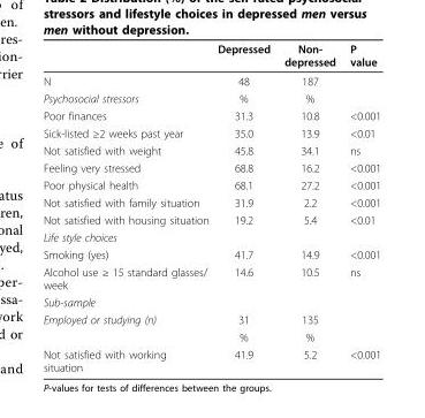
<table><thead><tr><td></td><td>Depressed</td><td>Non- depressed</td><td>P value</td></tr></thead><tbody><tr><td>N</td><td>48</td><td>187</td><td></td></tr><tr><td>Psychosocial stressors</td><td>%</td><td>%</td><td></td></tr><tr><td>Poor finances</td><td>31.3</td><td>10.8</td><td>&lt;0.001</td></tr><tr><td>Sick-listed ≥2 weeks past year</td><td>35.0</td><td>13.9</td><td>&lt;0.01</td></tr><tr><td>Not satisfied with weight</td><td>45.8</td><td>34.1</td><td>ns</td></tr><tr><td>Feeling very stressed</td><td>68.8</td><td>16.2</td><td>&lt;0.001</td></tr><tr><td>Poor physical health</td><td>68.1</td><td>27.2</td><td>&lt;0.001</td></tr><tr><td>Not satisfied with family situation</td><td>31.9</td><td>2.2</td><td>&lt;0.001</td></tr><tr><td>Not satisfied with housing situation</td><td>19.2</td><td>5.4</td><td>&lt;0.01</td></tr><tr><td colspan="4">Life style choices</td></tr><tr><td>Smoking (yes)</td><td>41.7</td><td>14.9</td><td>&lt;0.001</td></tr><tr><td>Alcohol use ≥ 15 standard glasses/ week</td><td>14.6</td><td>10.5</td><td>ns</td></tr><tr><td colspan="4">Sub-sample</td></tr><tr><td rowspan="2">Employed or studying (n)</td><td>31</td><td>135</td><td></td></tr><tr><td>%</td><td>%</td><td></td></tr><tr><td>Not satisfied with working situation</td><td>41.9</td><td>5.2</td><td>&lt;0.001</td></tr></tbody></table>